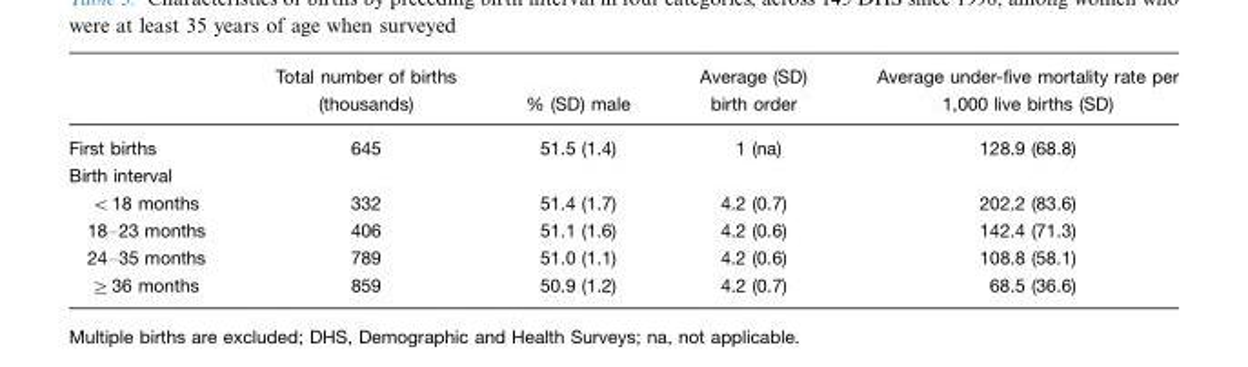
<table><thead><tr><td></td><td>Total number of births (thousands)</td><td>% (SD) male</td><td>Average (SD) birth order</td><td>Average under-five mortality rate per 1,000 live births (SD)</td></tr></thead><tbody><tr><td>First births</td><td>645</td><td>51.5 (1.4)</td><td>1 (na)</td><td>128.9 (68.8)</td></tr><tr><td colspan="5">Birth interval</td></tr><tr><td>&lt;18 months</td><td>332</td><td>51.4 (1.7)</td><td>4.2 (0.7)</td><td>202.2 (83.6)</td></tr><tr><td>18–23 months</td><td>406</td><td>51.1 (1.6)</td><td>4.2 (0.6)</td><td>142.4 (71.3)</td></tr><tr><td>24–35 months</td><td>789</td><td>51.0 (1.1)</td><td>4.2 (0.6)</td><td>108.8 (58.1)</td></tr><tr><td>≥36 months</td><td>859</td><td>50.9 (1.2)</td><td>4.2 (0.7)</td><td>68.5 (36.6)</td></tr></tbody></table>